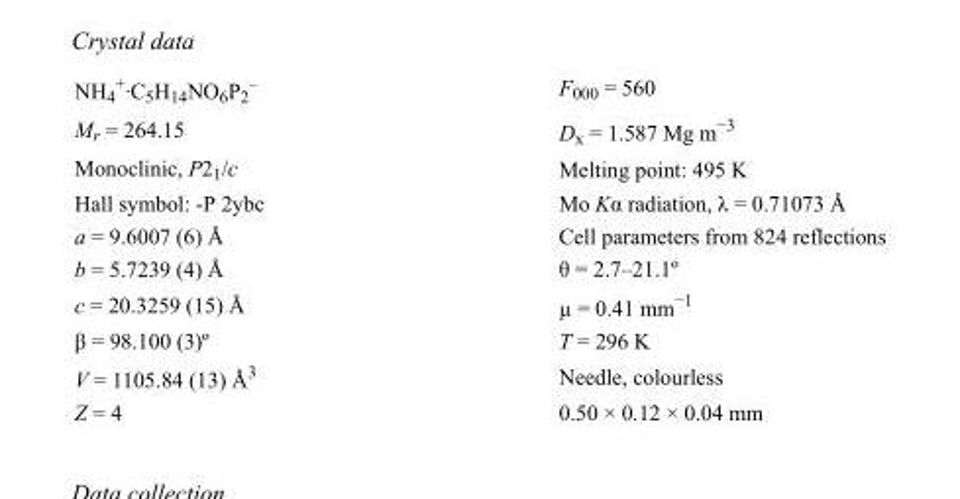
<table><tbody><tr><td>NH<sub>4</sub> <sup>+</sup>·C<sub>5</sub>H<sub>14</sub>NO<sub>6</sub>P<sub>2</sub> <sup>–</sup></td><td>F000 = 560</td></tr><tr><td>M<sub>r</sub> = 264.15</td><td>D<sub>x</sub> = 1.587 Mg m<sup>−3</sup></td></tr><tr><td>Monoclinic, P2<sub>1</sub>/c</td><td>Melting point: 495 K</td></tr><tr><td>Hall symbol: -P 2ybc</td><td>Mo Kα radiation, λ = 0.71073 Å</td></tr><tr><td>a = 9.6007 (6) Å</td><td>Cell parameters from 824 reflections</td></tr><tr><td>b = 5.7239 (4) Å</td><td>θ = 2.7–21.1º</td></tr><tr><td>c = 20.3259 (15) Å</td><td>µ = 0.41 mm<sup>−1</sup></td></tr><tr><td>β = 98.100 (3)º</td><td>T = 296 K</td></tr><tr><td>V = 1105.84 (13) Å<sup>3</sup></td><td>Needle, colourless</td></tr><tr><td>Z = 4</td><td>0.50 × 0.12 × 0.04 mm</td></tr></tbody></table>